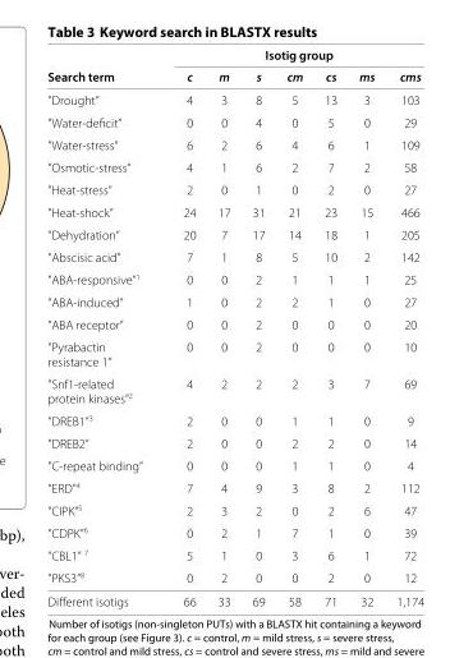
<table><thead><tr><td rowspan="2">Search term</td><td colspan="6">Isotig group</td><td rowspan="2">cms</td></tr><tr><td>c</td><td>m</td><td>s</td><td>cm</td><td>cs</td><td>ms</td></tr></thead><tbody><tr><td>”Drought”</td><td>4</td><td>3</td><td>8</td><td>5</td><td>13</td><td>3</td><td>103</td></tr><tr><td>”Water-deficit”</td><td>0</td><td>0</td><td>4</td><td>0</td><td>5</td><td>0</td><td>29</td></tr><tr><td>”Water-stress”</td><td>6</td><td>2</td><td>6</td><td>4</td><td>6</td><td>1</td><td>109</td></tr><tr><td>”Osmotic-stress”</td><td>4</td><td>1</td><td>6</td><td>2</td><td>7</td><td>2</td><td>58</td></tr><tr><td>”Heat-stress”</td><td>2</td><td>0</td><td>1</td><td>0</td><td>2</td><td>0</td><td>27</td></tr><tr><td>”Heat-shock”</td><td>24</td><td>17</td><td>31</td><td>21</td><td>23</td><td>15</td><td>466</td></tr><tr><td>”Dehydration”</td><td>20</td><td>7</td><td>17</td><td>14</td><td>18</td><td>1</td><td>205</td></tr><tr><td>”Abscisic acid”</td><td>7</td><td>1</td><td>8</td><td>5</td><td>10</td><td>2</td><td>142</td></tr><tr><td>”ABA-responsive”<sup>1</sup></td><td>0</td><td>0</td><td>2</td><td>1</td><td>1</td><td>1</td><td>25</td></tr><tr><td>”ABA-induced”</td><td>1</td><td>0</td><td>2</td><td>2</td><td>1</td><td>0</td><td>27</td></tr><tr><td>”ABA receptor”</td><td>0</td><td>0</td><td>2</td><td>0</td><td>0</td><td>0</td><td>20</td></tr><tr><td>”Pyrabactin resistance 1”</td><td>0</td><td>0</td><td>2</td><td>0</td><td>0</td><td>0</td><td>10</td></tr><tr><td>”Snf1-related protein kinases”<sup>2</sup></td><td>4</td><td>2</td><td>2</td><td>2</td><td>3</td><td>7</td><td>69</td></tr><tr><td>”DREB1”<sup>3</sup></td><td>2</td><td>0</td><td>0</td><td>1</td><td>1</td><td>0</td><td>9</td></tr><tr><td>”DREB2”</td><td>2</td><td>0</td><td>0</td><td>2</td><td>2</td><td>0</td><td>14</td></tr><tr><td>”C-repeat binding”</td><td>0</td><td>0</td><td>0</td><td>1</td><td>1</td><td>0</td><td>4</td></tr><tr><td>”ERD”<sup>4</sup></td><td>7</td><td>4</td><td>9</td><td>3</td><td>8</td><td>2</td><td>112</td></tr><tr><td>”CIPK”<sup>5</sup></td><td>2</td><td>3</td><td>2</td><td>0</td><td>2</td><td>6</td><td>47</td></tr><tr><td>”CDPK”<sup>6</sup></td><td>0</td><td>2</td><td>1</td><td>7</td><td>1</td><td>0</td><td>39</td></tr><tr><td>”CBL1” <sup>7</sup></td><td>5</td><td>1</td><td>0</td><td>3</td><td>6</td><td>1</td><td>72</td></tr><tr><td>”PKS3”<sup>8</sup></td><td>0</td><td>2</td><td>0</td><td>0</td><td>2</td><td>0</td><td>12</td></tr><tr><td>Different isotigs</td><td>66</td><td>33</td><td>69</td><td>58</td><td>71</td><td>32</td><td>1,174</td></tr></tbody></table>